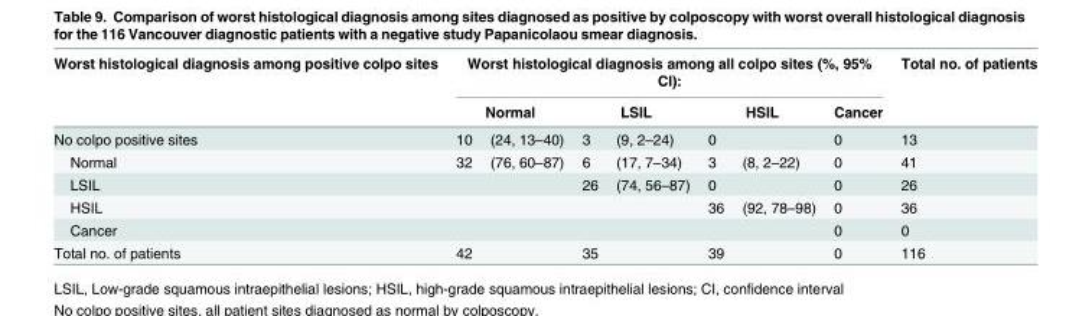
<table><thead><tr><td rowspan="3">Worst histological diagnosis among positive colpo sites No colpo positive sites</td><td colspan="7">Worst histological diagnosis among all colpo sites (%, 95% CI):</td><td rowspan="3">Total no. of patients 13</td></tr><tr><td colspan="2">Normal</td><td colspan="2">LSIL</td><td colspan="2">HSIL</td><td rowspan="2">Cancer 0</td></tr><tr><td>10</td><td>(24, 13–40)</td><td>3</td><td>(9, 2–24)</td><td>0</td><td></td></tr></thead><tbody><tr><td>Normal</td><td>32</td><td>(76, 60–87)</td><td>6</td><td>(17, 7–34)</td><td>3</td><td>(8, 2–22)</td><td>0</td><td>41</td></tr><tr><td>LSIL</td><td></td><td></td><td>26</td><td>(74, 56–87)</td><td>0</td><td></td><td>0</td><td>26</td></tr><tr><td>HSIL</td><td></td><td></td><td></td><td></td><td>36</td><td>(92, 78–98)</td><td>0</td><td>36</td></tr><tr><td>Cancer</td><td></td><td></td><td></td><td></td><td></td><td></td><td>0</td><td>0</td></tr><tr><td>Total no. of patients</td><td>42</td><td></td><td>35</td><td></td><td>39</td><td></td><td>0</td><td>116</td></tr></tbody></table>